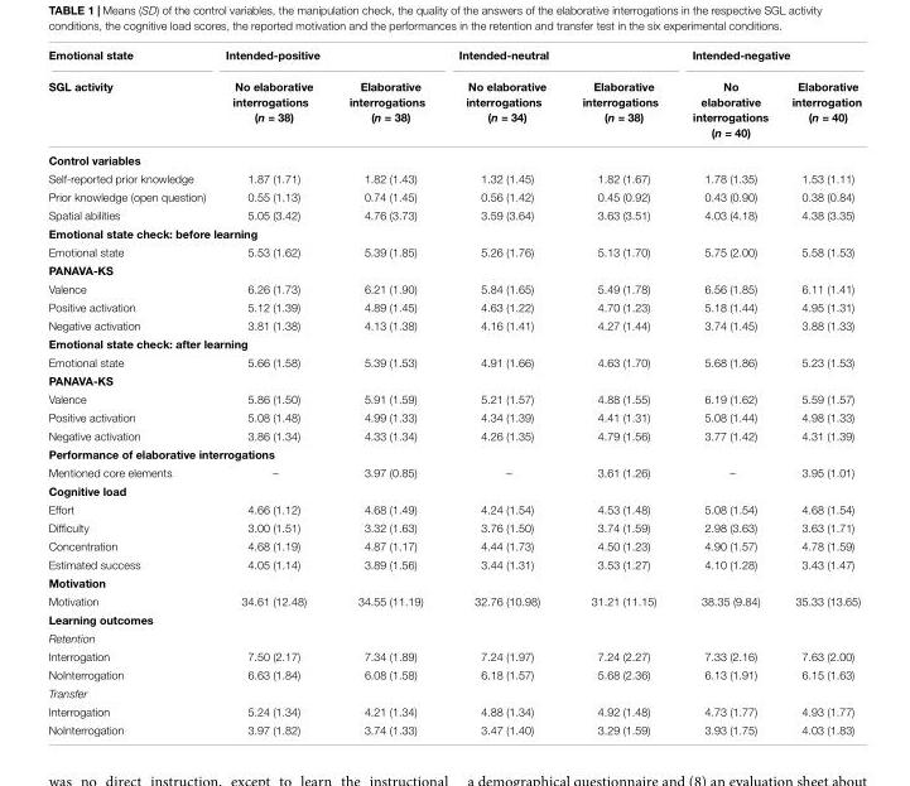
<table><thead><tr><td rowspan="2">Emotional state SGL activity</td><td colspan="2">Intended-positive</td><td colspan="2">Intended-neutral</td><td colspan="2">Intended-negative</td></tr><tr><td>No elaborative interrogations (n = 38)</td><td>Elaborative interrogations (n = 38)</td><td>No elaborative interrogations (n = 34)</td><td>Elaborative interrogations (n = 38)</td><td>No elaborative interrogations (n = 40)</td><td>Elaborative interrogation (n = 40)</td></tr></thead><tbody><tr><td colspan="7">Control variables</td></tr><tr><td>Self-reported prior knowledge</td><td>1.87 (1.71)</td><td>1.82 (1.43)</td><td>1.32 (1.45)</td><td>1.82 (1.67)</td><td>1.78 (1.35)</td><td>1.53 (1.11)</td></tr><tr><td>Prior knowledge (open question)</td><td>0.55 (1.13)</td><td>0.74 (1.45)</td><td>0.56 (1.42)</td><td>0.45 (0.92)</td><td>0.43 (0.90)</td><td>0.38 (0.84)</td></tr><tr><td>Spatial abilities</td><td>5.05 (3.42)</td><td>4.76 (3.73)</td><td>3.59 (3.64)</td><td>3.63 (3.51)</td><td>4.03 (4.18)</td><td>4.38 (3.35)</td></tr><tr><td colspan="7">Emotional state check: before learning</td></tr><tr><td>Emotional state</td><td>5.53 (1.62)</td><td>5.39 (1.85)</td><td>5.26 (1.76)</td><td>5.13 (1.70)</td><td>5.75 (2.00)</td><td>5.58 (1.53)</td></tr><tr><td colspan="7">PANAVA-KS</td></tr><tr><td>Valence</td><td>6.26 (1.73)</td><td>6.21 (1.90)</td><td>5.84 (1.65)</td><td>5.49 (1.78)</td><td>6.56 (1.85)</td><td>6.11 (1.41)</td></tr><tr><td>Positive activation</td><td>5.12 (1.39)</td><td>4.89 (1.45)</td><td>4.63 (1.22)</td><td>4.70 (1.23)</td><td>5.18 (1.44)</td><td>4.95 (1.31)</td></tr><tr><td>Negative activation</td><td>3.81 (1.38)</td><td>4.13 (1.38)</td><td>4.16 (1.41)</td><td>4.27 (1.44)</td><td>3.74 (1.45)</td><td>3.88 (1.33)</td></tr><tr><td colspan="7">Emotional state check: after learning</td></tr><tr><td>Emotional state</td><td>5.66 (1.58)</td><td>5.39 (1.53)</td><td>4.91 (1.66)</td><td>4.63 (1.70)</td><td>5.68 (1.86)</td><td>5.23 (1.53)</td></tr><tr><td colspan="7">PANAVA-KS</td></tr><tr><td>Valence</td><td>5.86 (1.50)</td><td>5.91 (1.59)</td><td>5.21 (1.57)</td><td>4.88 (1.55)</td><td>6.19 (1.62)</td><td>5.59 (1.57)</td></tr><tr><td>Positive activation</td><td>5.08 (1.48)</td><td>4.99 (1.33)</td><td>4.34 (1.39)</td><td>4.41 (1.31)</td><td>5.08 (1.44)</td><td>4.98 (1.33)</td></tr><tr><td>Negative activation</td><td>3.86 (1.34)</td><td>4.33 (1.34)</td><td>4.26 (1.35)</td><td>4.79 (1.56)</td><td>3.77 (1.42)</td><td>4.31 (1.39)</td></tr><tr><td colspan="7">Performance of elaborative interrogations</td></tr><tr><td>Mentioned core elements</td><td>–</td><td>3.97 (0.85)</td><td>–</td><td>3.61 (1.26)</td><td>–</td><td>3.95 (1.01)</td></tr><tr><td colspan="7">Cognitive load</td></tr><tr><td>Effort</td><td>4.66 (1.12)</td><td>4.68 (1.49)</td><td>4.24 (1.54)</td><td>4.53 (1.48)</td><td>5.08 (1.54)</td><td>4.68 (1.54)</td></tr><tr><td>Difficulty</td><td>3.00 (1.51)</td><td>3.32 (1.63)</td><td>3.76 (1.50)</td><td>3.74 (1.59)</td><td>2.98 (3.63)</td><td>3.63 (1.71)</td></tr><tr><td>Concentration</td><td>4.68 (1.19)</td><td>4.87 (1.17)</td><td>4.44 (1.73)</td><td>4.50 (1.23)</td><td>4.90 (1.57)</td><td>4.78 (1.59)</td></tr><tr><td>Estimated success</td><td>4.05 (1.14)</td><td>3.89 (1.56)</td><td>3.44 (1.31)</td><td>3.53 (1.27)</td><td>4.10 (1.28)</td><td>3.43 (1.47)</td></tr><tr><td colspan="7">Motivation</td></tr><tr><td>Motivation</td><td>34.61 (12.48)</td><td>34.55 (11.19)</td><td>32.76 (10.98)</td><td>31.21 (11.15)</td><td>38.35 (9.84)</td><td>35.33 (13.65)</td></tr><tr><td colspan="7">Learning outcomes</td></tr><tr><td colspan="7">Retention</td></tr><tr><td>Interrogation</td><td>7.50 (2.17)</td><td>7.34 (1.89)</td><td>7.24 (1.97)</td><td>7.24 (2.27)</td><td>7.33 (2.16)</td><td>7.63 (2.00)</td></tr><tr><td>NoInterrogation</td><td>6.63 (1.84)</td><td>6.08 (1.58)</td><td>6.18 (1.57)</td><td>5.68 (2.36)</td><td>6.13 (1.91)</td><td>6.15 (1.63)</td></tr><tr><td colspan="7">Transfer</td></tr><tr><td>Interrogation</td><td>5.24 (1.34)</td><td>4.21 (1.34)</td><td>4.88 (1.34)</td><td>4.92 (1.48)</td><td>4.73 (1.77)</td><td>4.93 (1.77)</td></tr><tr><td>NoInterrogation</td><td>3.97 (1.82)</td><td>3.74 (1.33)</td><td>3.47 (1.40)</td><td>3.29 (1.59)</td><td>3.93 (1.75)</td><td>4.03 (1.83)</td></tr></tbody></table>